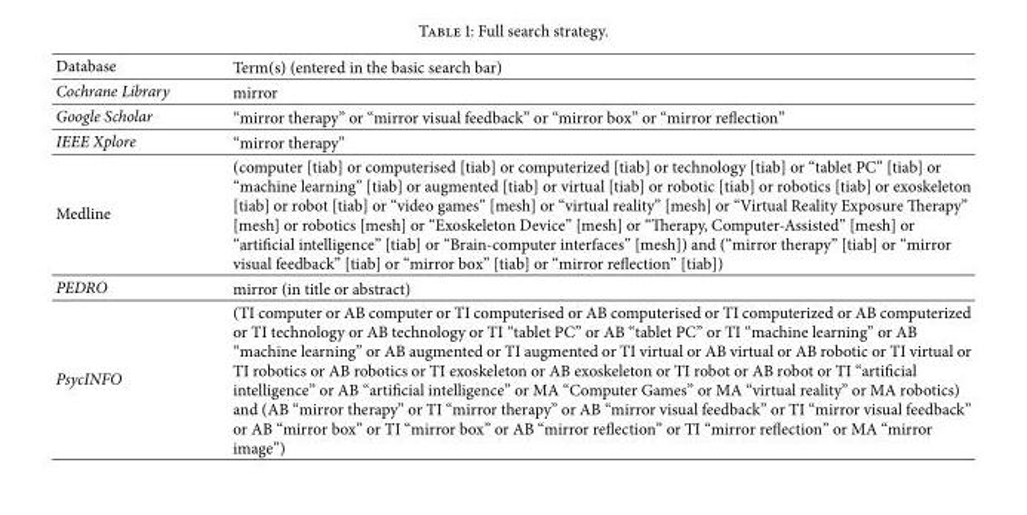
<table><thead><tr><td>Database</td><td>Term(s) (entered in the basic search bar)</td></tr></thead><tbody><tr><td>Cochrane Library</td><td>mirror</td></tr><tr><td>Google Scholar</td><td>“mirror therapy” or “mirror visual feedback” or “mirror box” or “mirror reflection”</td></tr><tr><td>IEEE Xplore</td><td>“mirror therapy”</td></tr><tr><td>Medline</td><td>(computer [tiab] or computerised [tiab] or computerized [tiab] or technology [tiab] or “tablet PC” [tiab] or “machine learning” [tiab] or augmented [tiab] or virtual [tiab] or robotic [tiab] or robotics [tiab] or exoskeleton [tiab] or robot [tiab] or “video games” [mesh] or “virtual reality” [mesh] or “Virtual Reality Exposure Therapy” [mesh] or robotics [mesh] or “Exoskeleton Device” [mesh] or “Therapy, Computer-Assisted” [mesh] or “artificial intelligence” [tiab] or “Brain-computer interfaces” [mesh]) and (“mirror therapy” [tiab] or “mirror visual feedback” [tiab] or “mirror box” [tiab] or “mirror reflection” [tiab])</td></tr><tr><td>PEDRO</td><td>mirror (in title or abstract)</td></tr><tr><td>PsycINFO</td><td>(TI computer or AB computer or TI computerised or AB computerised or TI computerized or AB computerized or TI technology or AB technology or TI “tablet PC” or AB “tablet PC” or TI “machine learning” or AB “machine learning” or AB augmented or TI augmented or TI virtual or AB virtual or AB robotic or TI virtual or TI robotics or AB robotics or TI exoskeleton or AB exoskeleton or TI robot or AB robot or TI “artificial intelligence” or AB “artificial intelligence” or MA “Computer Games” or MA “virtual reality” or MA robotics) and (AB “mirror therapy” or TI “mirror therapy” or AB “mirror visual feedback” or TI “mirror visual feedback” or AB “mirror box” or TI “mirror box” or AB “mirror reflection” or TI “mirror reflection” or MA “mirror image”)</td></tr></tbody></table>